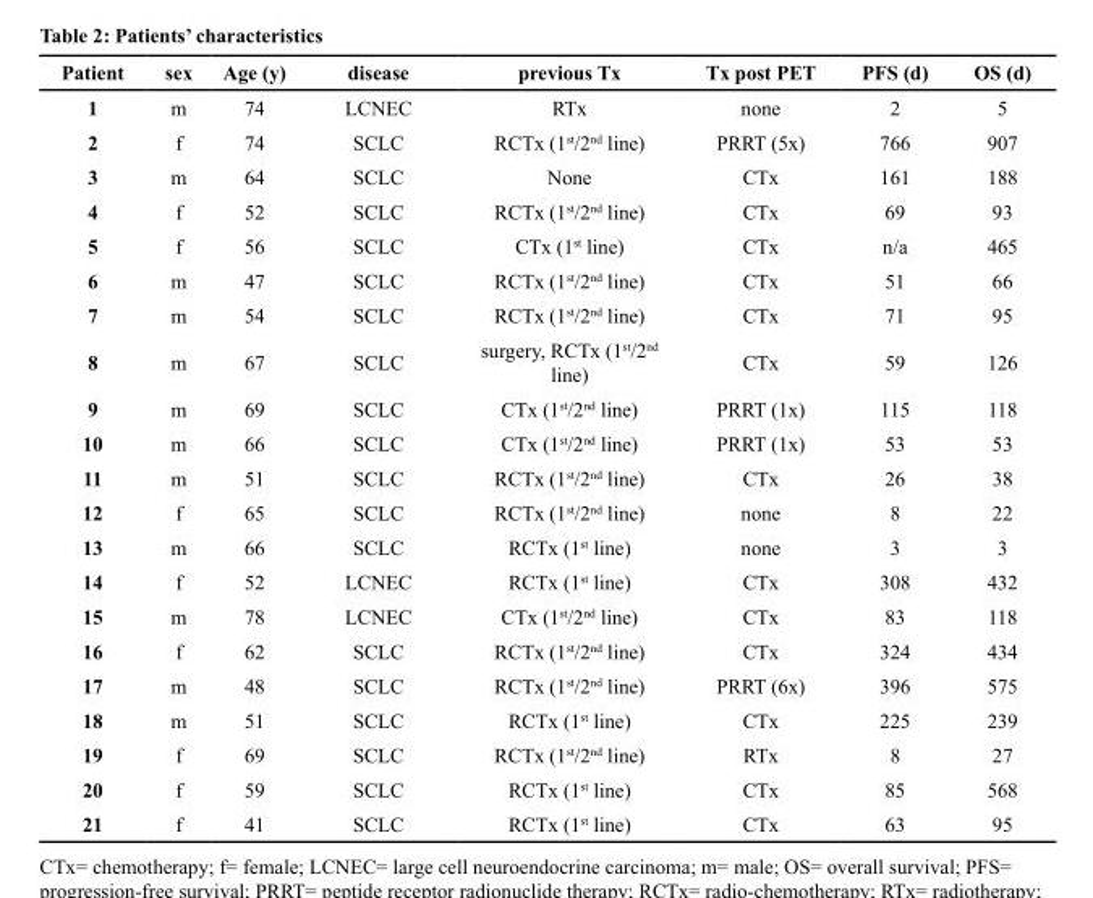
<table><thead><tr><td>Patient</td><td>sex</td><td>Age (y)</td><td>disease</td><td>previous Tx</td><td>Tx post PET</td><td>PFS (d)</td><td>OS (d)</td></tr></thead><tbody><tr><td>1</td><td>m</td><td>74</td><td>LCNEC</td><td>RTx</td><td>none</td><td>2</td><td>5</td></tr><tr><td>2</td><td>f</td><td>74</td><td>SCLC</td><td>RCTx (1<sup>st</sup>/2<sup>nd</sup> line)</td><td>PRRT (5x)</td><td>766</td><td>907</td></tr><tr><td>3</td><td>m</td><td>64</td><td>SCLC</td><td>None</td><td>CTx</td><td>161</td><td>188</td></tr><tr><td>4</td><td>f</td><td>52</td><td>SCLC</td><td>RCTx (1<sup>st</sup>/2<sup>nd</sup> line)</td><td>CTx</td><td>69</td><td>93</td></tr><tr><td>5</td><td>f</td><td>56</td><td>SCLC</td><td>CTx (1<sup>st</sup> line)</td><td>CTx</td><td>n/a</td><td>465</td></tr><tr><td>6</td><td>m</td><td>47</td><td>SCLC</td><td>RCTx (1<sup>st</sup>/2<sup>nd</sup> line)</td><td>CTx</td><td>51</td><td>66</td></tr><tr><td>7</td><td>m</td><td>54</td><td>SCLC</td><td>RCTx (1<sup>st</sup>/2<sup>nd</sup> line)</td><td>CTx</td><td>71</td><td>95</td></tr><tr><td>8</td><td>m</td><td>67</td><td>SCLC</td><td>surgery, RCTx (1<sup>st</sup>/2<sup>nd</sup> line)</td><td>CTx</td><td>59</td><td>126</td></tr><tr><td>9</td><td>m</td><td>69</td><td>SCLC</td><td>CTx (1<sup>st</sup>/2<sup>nd</sup> line)</td><td>PRRT (1x)</td><td>115</td><td>118</td></tr><tr><td>10</td><td>m</td><td>66</td><td>SCLC</td><td>CTx (1<sup>st</sup>/2<sup>nd</sup> line)</td><td>PRRT (1x)</td><td>53</td><td>53</td></tr><tr><td>11</td><td>m</td><td>51</td><td>SCLC</td><td>RCTx (1<sup>st</sup>/2<sup>nd</sup> line)</td><td>CTx</td><td>26</td><td>38</td></tr><tr><td>12</td><td>f</td><td>65</td><td>SCLC</td><td>RCTx (1<sup>st</sup>/2<sup>nd</sup> line)</td><td>none</td><td>8</td><td>22</td></tr><tr><td>13</td><td>m</td><td>66</td><td>SCLC</td><td>RCTx (1<sup>st</sup> line)</td><td>none</td><td>3</td><td>3</td></tr><tr><td>14</td><td>f</td><td>52</td><td>LCNEC</td><td>RCTx (1<sup>st</sup> line)</td><td>CTx</td><td>308</td><td>432</td></tr><tr><td>15</td><td>m</td><td>78</td><td>LCNEC</td><td>CTx (1<sup>st</sup>/2<sup>nd</sup> line)</td><td>CTx</td><td>83</td><td>118</td></tr><tr><td>16</td><td>f</td><td>62</td><td>SCLC</td><td>RCTx (1<sup>st</sup>/2<sup>nd</sup> line)</td><td>CTx</td><td>324</td><td>434</td></tr><tr><td>17</td><td>m</td><td>48</td><td>SCLC</td><td>RCTx (1<sup>st</sup>/2<sup>nd</sup> line)</td><td>PRRT (6x)</td><td>396</td><td>575</td></tr><tr><td>18</td><td>m</td><td>51</td><td>SCLC</td><td>RCTx (1<sup>st</sup> line)</td><td>CTx</td><td>225</td><td>239</td></tr><tr><td>19</td><td>f</td><td>69</td><td>SCLC</td><td>RCTx (1<sup>st</sup>/2<sup>nd</sup> line)</td><td>RTx</td><td>8</td><td>27</td></tr><tr><td>20</td><td>f</td><td>59</td><td>SCLC</td><td>RCTx (1<sup>st</sup> line)</td><td>CTx</td><td>85</td><td>568</td></tr><tr><td>21</td><td>f</td><td>41</td><td>SCLC</td><td>RCTx (1<sup>st</sup> line)</td><td>CTx</td><td>63</td><td>95</td></tr></tbody></table>